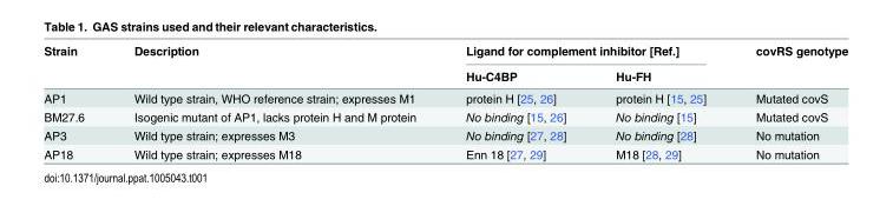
<table><thead><tr><td rowspan="2">Strain</td><td rowspan="2">Description</td><td colspan="2">Ligand for complement inhibitor [Ref.]</td><td rowspan="2">covRS genotype</td></tr><tr><td>Hu-C4BP</td><td>Hu-FH</td></tr></thead><tbody><tr><td>AP1</td><td>Wild type strain, WHO reference strain; expresses M1</td><td>protein H [25, 26]</td><td>protein H [15, 25]</td><td>Mutated covS</td></tr><tr><td>BM27.6</td><td>Isogenic mutant of AP1, lacks protein H and M protein</td><td>No binding [15, 26]</td><td>No binding [15]</td><td>Mutated covS</td></tr><tr><td>AP3</td><td>Wild type strain; expresses M3</td><td>No binding [27, 28]</td><td>No binding [28]</td><td>No mutation</td></tr><tr><td>AP18</td><td>Wild type strain; expresses M18</td><td>Enn 18 [27, 29]</td><td>M18 [28, 29]</td><td>No mutation</td></tr></tbody></table>